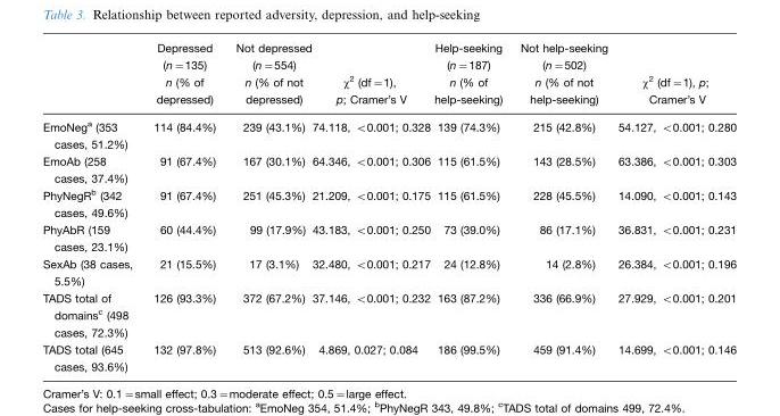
<table><thead><tr><td></td><td>Depressed (n=135) n (% of depressed)</td><td>Not depressed (n=554) n (% of not depressed)</td><td>χ<sup>2</sup> (df=1), p; Cramer’s V</td><td>Help-seeking (n=187) n (% of help-seeking)</td><td>Not help-seeking (n=502) n (% of not help-seeking)</td><td>χ<sup>2</sup> (df=1), p; Cramer’s V</td></tr></thead><tbody><tr><td>EmoNeg<sup>a</sup> (353 cases, 51.2%)</td><td>114 (84.4%)</td><td>239 (43.1%)</td><td>74.118, &lt;0.001; 0.328</td><td>139 (74.3%)</td><td>215 (42.8%)</td><td>54.127, &lt;0.001; 0.280</td></tr><tr><td>EmoAb (258 cases, 37.4%)</td><td>91 (67.4%)</td><td>167 (30.1%)</td><td>64.346, &lt;0.001; 0.306</td><td>115 (61.5%)</td><td>143 (28.5%)</td><td>63.386, &lt;0.001; 0.303</td></tr><tr><td>PhyNegR<sup>b</sup> (342 cases, 49.6%)</td><td>91 (67.4%)</td><td>251 (45.3%)</td><td>21.209, &lt;0.001; 0.175</td><td>115 (61.5%)</td><td>228 (45.5%)</td><td>14.090, &lt;0.001; 0.143</td></tr><tr><td>PhyAbR (159 cases, 23.1%)</td><td>60 (44.4%)</td><td>99 (17.9%)</td><td>43.183, &lt;0.001; 0.250</td><td>73 (39.0%)</td><td>86 (17.1%)</td><td>36.831, &lt;0.001; 0.231</td></tr><tr><td>SexAb (38 cases, 5.5%)</td><td>21 (15.5%)</td><td>17 (3.1%)</td><td>32.480, &lt;0.001; 0.217</td><td>24 (12.8%)</td><td>14 (2.8%)</td><td>26.384, &lt;0.001; 0.196</td></tr><tr><td>TADS total of domains<sup>c</sup> (498 cases, 72.3%)</td><td>126 (93.3%)</td><td>372 (67.2%)</td><td>37.146, &lt;0.001; 0.232</td><td>163 (87.2%)</td><td>336 (66.9%)</td><td>27.929, &lt;0.001; 0.201</td></tr><tr><td>TADS total (645 cases, 93.6%)</td><td>132 (97.8%)</td><td>513 (92.6%)</td><td>4.869, 0.027; 0.084</td><td>186 (99.5%)</td><td>459 (91.4%)</td><td>14.699, &lt;0.001; 0.146</td></tr></tbody></table>